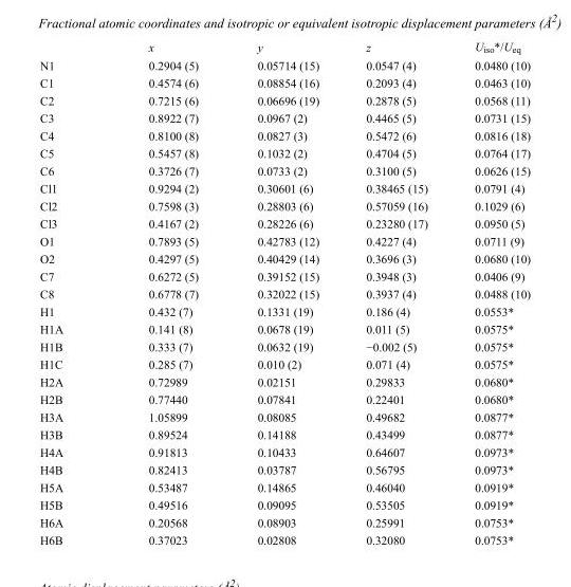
<table><thead><tr><td></td><td>x</td><td>y</td><td>z</td><td>U<sub>iso</sub>*/U<sub>eq</sub></td></tr></thead><tbody><tr><td>N1</td><td>0.2904 (5)</td><td>0.05714 (15)</td><td>0.0547 (4)</td><td>0.0480 (10)</td></tr><tr><td>C1</td><td>0.4574 (6)</td><td>0.08854 (16)</td><td>0.2093 (4)</td><td>0.0463 (10)</td></tr><tr><td>C2</td><td>0.7215 (6)</td><td>0.06696 (19)</td><td>0.2878 (5)</td><td>0.0568 (11)</td></tr><tr><td>C3</td><td>0.8922 (7)</td><td>0.0967 (2)</td><td>0.4465 (5)</td><td>0.0731 (15)</td></tr><tr><td>C4</td><td>0.8100 (8)</td><td>0.0827 (3)</td><td>0.5472 (6)</td><td>0.0816 (18)</td></tr><tr><td>C5</td><td>0.5457 (8)</td><td>0.1032 (2)</td><td>0.4704 (5)</td><td>0.0764 (17)</td></tr><tr><td>C6</td><td>0.3726 (7)</td><td>0.0733 (2)</td><td>0.3100 (5)</td><td>0.0626 (15)</td></tr><tr><td>Cl1</td><td>0.9294 (2)</td><td>0.30601 (6)</td><td>0.38465 (15)</td><td>0.0791 (4)</td></tr><tr><td>Cl2</td><td>0.7598 (3)</td><td>0.28803 (6)</td><td>0.57059 (16)</td><td>0.1029 (6)</td></tr><tr><td>Cl3</td><td>0.4167 (2)</td><td>0.28226 (6)</td><td>0.23280 (17)</td><td>0.0950 (5)</td></tr><tr><td>O1</td><td>0.7893 (5)</td><td>0.42783 (12)</td><td>0.4227 (4)</td><td>0.0711 (9)</td></tr><tr><td>O2</td><td>0.4297 (5)</td><td>0.40429 (14)</td><td>0.3696 (3)</td><td>0.0680 (10)</td></tr><tr><td>C7</td><td>0.6272 (5)</td><td>0.39152 (15)</td><td>0.3948 (3)</td><td>0.0406 (9)</td></tr><tr><td>C8</td><td>0.6778 (7)</td><td>0.32022 (15)</td><td>0.3937 (4)</td><td>0.0488 (10)</td></tr><tr><td>H1</td><td>0.432 (7)</td><td>0.1331 (19)</td><td>0.186 (4)</td><td>0.0553*</td></tr><tr><td>H1A</td><td>0.141 (8)</td><td>0.0678 (19)</td><td>0.011 (5)</td><td>0.0575*</td></tr><tr><td>H1B</td><td>0.333 (7)</td><td>0.0632 (19)</td><td>−0.002 (5)</td><td>0.0575*</td></tr><tr><td>H1C</td><td>0.285 (7)</td><td>0.010 (2)</td><td>0.071 (4)</td><td>0.0575*</td></tr><tr><td>H2A</td><td>0.72989</td><td>0.02151</td><td>0.29833</td><td>0.0680*</td></tr><tr><td>H2B</td><td>0.77440</td><td>0.07841</td><td>0.22401</td><td>0.0680*</td></tr><tr><td>H3A</td><td>1.05899</td><td>0.08085</td><td>0.49682</td><td>0.0877*</td></tr><tr><td>H3B</td><td>0.89524</td><td>0.14188</td><td>0.43499</td><td>0.0877*</td></tr><tr><td>H4A</td><td>0.91813</td><td>0.10433</td><td>0.64607</td><td>0.0973*</td></tr><tr><td>H4B</td><td>0.82413</td><td>0.03787</td><td>0.56795</td><td>0.0973*</td></tr><tr><td>H5A</td><td>0.53487</td><td>0.14865</td><td>0.46040</td><td>0.0919*</td></tr><tr><td>H5B</td><td>0.49516</td><td>0.09095</td><td>0.53505</td><td>0.0919*</td></tr><tr><td>H6A</td><td>0.20568</td><td>0.08903</td><td>0.25991</td><td>0.0753*</td></tr><tr><td>H6B</td><td>0.37023</td><td>0.02808</td><td>0.32080</td><td>0.0753*</td></tr></tbody></table>